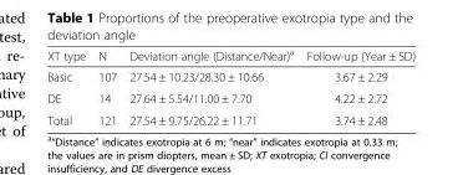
<table><thead><tr><td>XT type</td><td>N</td><td>Deviation angle (Distance/Near)<sup>a</sup></td><td>Follow-up (Year ± SD)</td></tr></thead><tbody><tr><td>Basic</td><td>107</td><td>27.54 ± 10.23/28.30 ± 10.66</td><td>3.67 ± 2.29</td></tr><tr><td>DE</td><td>14</td><td>27.64 ± 5.54/11.00 ± 7.70</td><td>4.22 ± 2.72</td></tr><tr><td>Total</td><td>121</td><td>27.54 ± 9.75/26.22 ± 11.71</td><td>3.74 ± 2.48</td></tr></tbody></table>